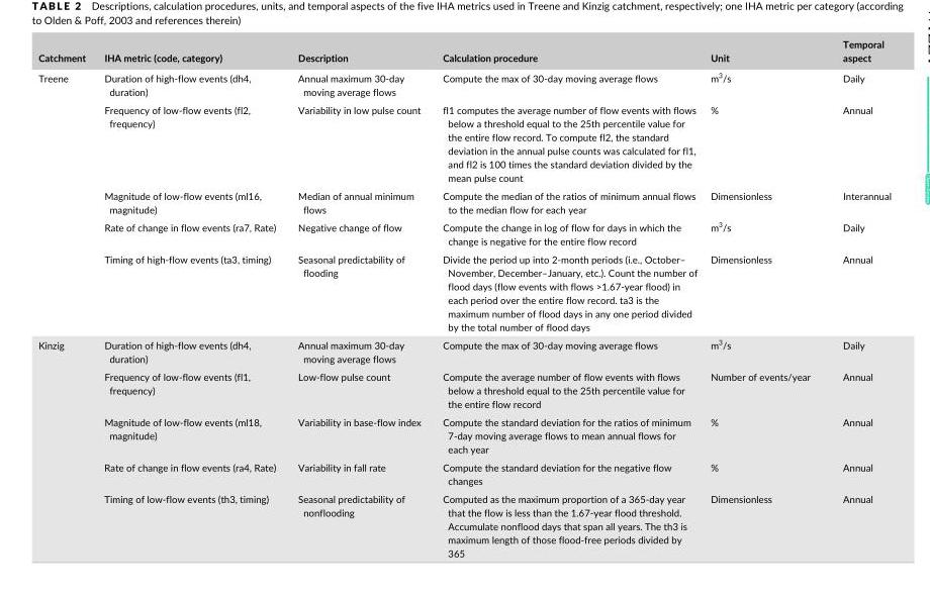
<table><thead><tr><td>Catchment</td><td>IHA metric (code, category)</td><td>Description</td><td>Calculation procedure</td><td>Unit</td><td>Temporal aspect</td></tr></thead><tbody><tr><td rowspan="5">Treene</td><td>Duration of high- flow events (dh4, duration)</td><td>Annual maximum 30- day moving average flows</td><td>Compute the max of 30- day moving average flows</td><td>m<sup>3</sup>/s</td><td>Daily</td></tr><tr><td>Frequency of low- flow events (fl2, frequency)</td><td>Variability in low pulse count</td><td>fl1 computes the average number of flow events with flows below a threshold equal to the 25th percentile value for the entire flow record. To compute fl2, the standard deviation in the annual pulse counts was calculated for fl1, and fl2 is 100 times the standard deviation divided by the mean pulse count</td><td>%</td><td>Annual</td></tr><tr><td>Magnitude of low- flow events (ml16, magnitude)</td><td>Median of annual minimum flows</td><td>Compute the median of the ratios of minimum annual flows to the median flow for each year</td><td>Dimensionless</td><td>Interannual</td></tr><tr><td>Rate of change in flow events (ra7, Rate)</td><td>Negative change of flow</td><td>Compute the change in log of flow for days in which the change is negative for the entire flow record</td><td>m<sup>3</sup>/s</td><td>Daily</td></tr><tr><td>Timing of high- flow events (ta3, timing)</td><td>Seasonal predictability of flooding</td><td>Divide the period up into 2- month periods (i.e., October– November, December–January, etc.). Count the number of flood days (flow events with flows &gt;1.67- year flood) in each period over the entire flow record. ta3 is the maximum number of flood days in any one period divided by the total number of flood days</td><td>Dimensionless</td><td>Annual</td></tr><tr><td rowspan="5">Kinzig</td><td>Duration of high- flow events (dh4, duration)</td><td>Annual maximum 30- day moving average flows</td><td>Compute the max of 30- day moving average flows</td><td>m<sup>3</sup>/s</td><td>Daily</td></tr><tr><td>Frequency of low- flow events (fl1, frequency)</td><td>Low- flow pulse count</td><td>Compute the average number of flow events with flows below a threshold equal to the 25th percentile value for the entire flow record</td><td>Number of events/year</td><td>Annual</td></tr><tr><td>Magnitude of low- flow events (ml18, magnitude)</td><td>Variability in base- flow index</td><td>Compute the standard deviation for the ratios of minimum 7- day moving average flows to mean annual flows for each year</td><td>%</td><td>Annual</td></tr><tr><td>Rate of change in flow events (ra4, Rate)</td><td>Variability in fall rate</td><td>Compute the standard deviation for the negative flow changes</td><td>%</td><td>Annual</td></tr><tr><td>Timing of low- flow events (th3, timing)</td><td>Seasonal predictability of nonflooding</td><td>Computed as the maximum proportion of a 365- day year that the flow is less than the 1.67- year flood threshold. Accumulate nonflood days that span all years. The th3 is maximum length of those flood- free periods divided by 365</td><td>Dimensionless</td><td>Annual</td></tr></tbody></table>